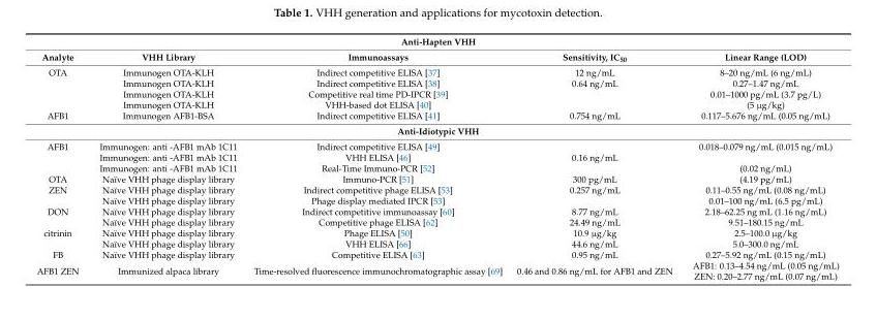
<table><tbody><tr><td colspan="5">Anti-Hapten VHH</td></tr><tr><td>Analyte</td><td>VHH Library</td><td>Immunoassays</td><td>Sensitivity, IC<sub>50</sub></td><td>Linear Range (LOD)</td></tr><tr><td rowspan="4">OTA</td><td>Immunogen OTA-KLH</td><td>Indirect competitive ELISA [37]</td><td>12 ng/mL</td><td>8–20 ng/mL (6 ng/mL)</td></tr><tr><td>Immunogen OTA-KLH</td><td>Indirect competitive ELISA [38]</td><td>0.64 ng/mL</td><td>0.27–1.47 ng/mL</td></tr><tr><td>Immunogen OTA-KLH</td><td>Competitive real time PD-IPCR [39]</td><td></td><td>0.01–1000 pg/mL (3.7 pg/L)</td></tr><tr><td>Immunogen OTA-KLH</td><td>VHH-based dot ELISA [40]</td><td></td><td>(5 µg/kg)</td></tr><tr><td>AFB1</td><td>Immunogen AFB1-BSA</td><td>Indirect competitive ELISA [41]</td><td>0.754 ng/mL</td><td>0.117–5.676 ng/mL (0.05 ng/mL)</td></tr><tr><td colspan="5">Anti-Idiotypic VHH</td></tr><tr><td rowspan="3">AFB1</td><td>Immunogen: anti -AFB1 mAb 1C11</td><td>Indirect competitive ELISA [49]</td><td></td><td>0.018–0.079 ng/mL (0.015 ng/mL)</td></tr><tr><td>Immunogen: anti -AFB1 mAb 1C11</td><td>VHH ELISA [46]</td><td>0.16 ng/mL</td><td></td></tr><tr><td>Immunogen: anti -AFB1 mAb 1C11</td><td>Real-Time Immuno-PCR [52]</td><td></td><td>(0.02 ng/mL)</td></tr><tr><td>OTA</td><td>Naïve VHH phage display library</td><td>Immuno-PCR [51]</td><td>300 pg/mL</td><td>(4.19 pg/mL)</td></tr><tr><td rowspan="2">ZEN</td><td>Naïve VHH phage display library</td><td>Indirect competitive phage ELISA [53]</td><td>0.257 ng/mL</td><td>0.11–0.55 ng/mL (0.08 ng/mL)</td></tr><tr><td>Naïve VHH phage display library</td><td>Phage display mediated IPCR [53]</td><td></td><td>0.01–100 ng/mL (6.5 pg/mL)</td></tr><tr><td rowspan="2">DON</td><td>Naïve VHH phage display library</td><td>Indirect competitive immunoassay [60]</td><td>8.77 ng/mL</td><td>2.18–62.25 ng mL (1.16 ng/mL)</td></tr><tr><td>Naïve VHH phage display library</td><td>Competitive phage ELISA [62]</td><td>24.49 ng/mL</td><td>9.51–180.15 ng/mL</td></tr><tr><td rowspan="2">citrinin</td><td>Naïve VHH phage display library</td><td>Phage ELISA [50]</td><td>10.9 µg/kg</td><td>2.5–100.0 µg/kg</td></tr><tr><td>Naïve VHH phage display library</td><td>VHH ELISA [66]</td><td>44.6 ng/mL</td><td>5.0–300.0 ng/mL</td></tr><tr><td>FB</td><td>Naïve VHH phage display library</td><td>Competitive ELISA [63]</td><td>0.95 ng/mL</td><td>0.27–5.92 ng/mL (0.15 ng/mL)</td></tr><tr><td>AFB1 ZEN</td><td>Immunized alpaca library</td><td>Time-resolved fluorescence immunochromatographic assay [69]</td><td>0.46 and 0.86 ng/mL for AFB1 and ZEN</td><td>AFB1: 0.13–4.54 ng/mL (0.05 ng/mL) ZEN: 0.20–2.77 ng/mL (0.07 ng/mL)</td></tr></tbody></table>